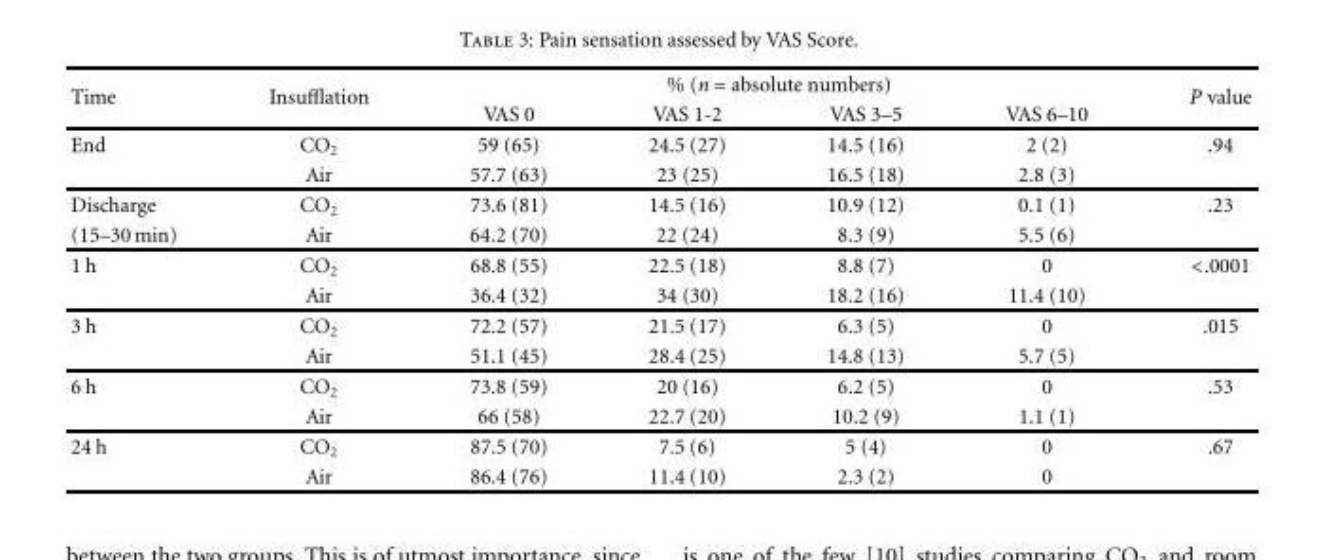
<table><thead><tr><td rowspan="2">Time</td><td rowspan="2">Insufflation</td><td colspan="4">% (n = absolute numbers)</td><td rowspan="2">P value</td></tr><tr><td>VAS 0</td><td>VAS 1-2</td><td>VAS 3–5</td><td>VAS 6–10</td></tr></thead><tbody><tr><td rowspan="2">End</td><td>CO<sub>2</sub></td><td>59 (65)</td><td>24.5 (27)</td><td>14.5 (16)</td><td>2 (2)</td><td>.94</td></tr><tr><td>Air</td><td>57.7 (63)</td><td>23 (25)</td><td>16.5 (18)</td><td>2.8 (3)</td><td></td></tr><tr><td>Discharge</td><td>CO<sub>2</sub></td><td>73.6 (81)</td><td>14.5 (16)</td><td>10.9 (12)</td><td>0.1 (1)</td><td>.23</td></tr><tr><td>(15–30 min)</td><td>Air</td><td>64.2 (70)</td><td>22 (24)</td><td>8.3 (9)</td><td>5.5 (6)</td><td></td></tr><tr><td rowspan="2">1 h</td><td>CO<sub>2</sub></td><td>68.8 (55)</td><td>22.5 (18)</td><td>8.8 (7)</td><td>0</td><td>&lt;.0001</td></tr><tr><td>Air</td><td>36.4 (32)</td><td>34 (30)</td><td>18.2 (16)</td><td>11.4 (10)</td><td></td></tr><tr><td rowspan="2">3 h</td><td>CO<sub>2</sub></td><td>72.2 (57)</td><td>21.5 (17)</td><td>6.3 (5)</td><td>0</td><td>.015</td></tr><tr><td>Air</td><td>51.1 (45)</td><td>28.4 (25)</td><td>14.8 (13)</td><td>5.7 (5)</td><td></td></tr><tr><td rowspan="2">6 h</td><td>CO<sub>2</sub></td><td>73.8 (59)</td><td>20 (16)</td><td>6.2 (5)</td><td>0</td><td>.53</td></tr><tr><td>Air</td><td>66 (58)</td><td>22.7 (20)</td><td>10.2 (9)</td><td>1.1 (1)</td><td></td></tr><tr><td rowspan="2">24 h</td><td>CO<sub>2</sub></td><td>87.5 (70)</td><td>7.5 (6)</td><td>5 (4)</td><td>0</td><td>.67</td></tr><tr><td>Air</td><td>86.4 (76)</td><td>11.4 (10)</td><td>2.3 (2)</td><td>0</td><td></td></tr></tbody></table>